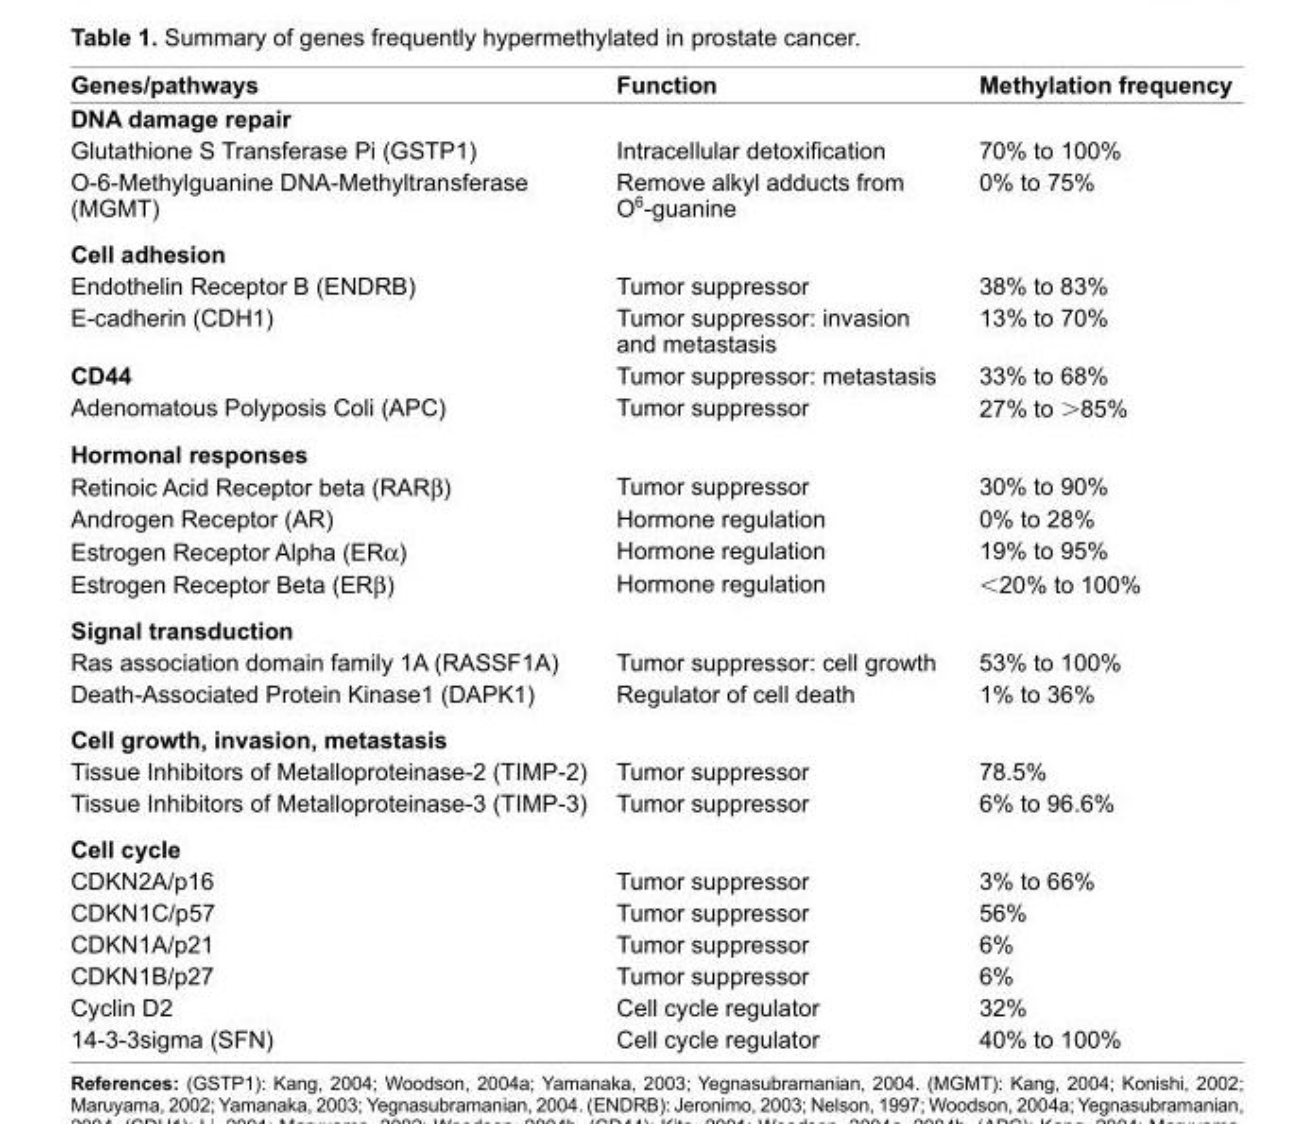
<table><thead><tr><td>Genes/pathways</td><td>Function</td><td>Methylation frequency</td></tr></thead><tbody><tr><td colspan="3">DNA damage repair</td></tr><tr><td>Glutathione S Transferase Pi (GSTP1)</td><td>Intracellular detoxifi cation</td><td>70% to 100%</td></tr><tr><td>O-6-Methylguanine DNA-Methyltransferase (MGMT)</td><td>Remove alkyl adducts from O<sup>6</sup>-guanine</td><td>0% to 75%</td></tr><tr><td colspan="3">Cell adhesion</td></tr><tr><td>Endothelin Receptor B (ENDRB)</td><td>Tumor suppressor</td><td>38% to 83%</td></tr><tr><td>E-cadherin (CDH1)</td><td>Tumor suppressor: invasion and metastasis</td><td>13% to 70%</td></tr><tr><td>CD44</td><td>Tumor suppressor: metastasis</td><td>33% to 68%</td></tr><tr><td>Adenomatous Polyposis Coli (APC)</td><td>Tumor suppressor</td><td>27% to &gt;85%</td></tr><tr><td colspan="3">Hormonal responses</td></tr><tr><td>Retinoic Acid Receptor beta (RARβ)</td><td>Tumor suppressor</td><td>30% to 90%</td></tr><tr><td>Androgen Receptor (AR)</td><td>Hormone regulation</td><td>0% to 28%</td></tr><tr><td>Estrogen Receptor Alpha (ERα)</td><td>Hormone regulation</td><td>19% to 95%</td></tr><tr><td>Estrogen Receptor Beta (ERβ)</td><td>Hormone regulation</td><td>&lt;20% to 100%</td></tr><tr><td colspan="3">Signal transduction</td></tr><tr><td>Ras association domain family 1A (RASSF1A)</td><td>Tumor suppressor: cell growth</td><td>53% to 100%</td></tr><tr><td>Death-Associated Protein Kinase1 (DAPK1)</td><td>Regulator of cell death</td><td>1% to 36%</td></tr><tr><td colspan="3">Cell growth, invasion, metastasis</td></tr><tr><td>Tissue Inhibitors of Metalloproteinase-2 (TIMP-2)</td><td>Tumor suppressor</td><td>78.5%</td></tr><tr><td>Tissue Inhibitors of Metalloproteinase-3 (TIMP-3)</td><td>Tumor suppressor</td><td>6% to 96.6%</td></tr><tr><td colspan="3">Cell cycle</td></tr><tr><td>CDKN2A/p16</td><td>Tumor suppressor</td><td>3% to 66%</td></tr><tr><td>CDKN1C/p57</td><td>Tumor suppressor</td><td>56%</td></tr><tr><td>CDKN1A/p21</td><td>Tumor suppressor</td><td>6%</td></tr><tr><td>CDKN1B/p27</td><td>Tumor suppressor</td><td>6%</td></tr><tr><td>Cyclin D2</td><td>Cell cycle regulator</td><td>32%</td></tr><tr><td>14-3-3sigma (SFN)</td><td>Cell cycle regulator</td><td>40% to 100%</td></tr></tbody></table>